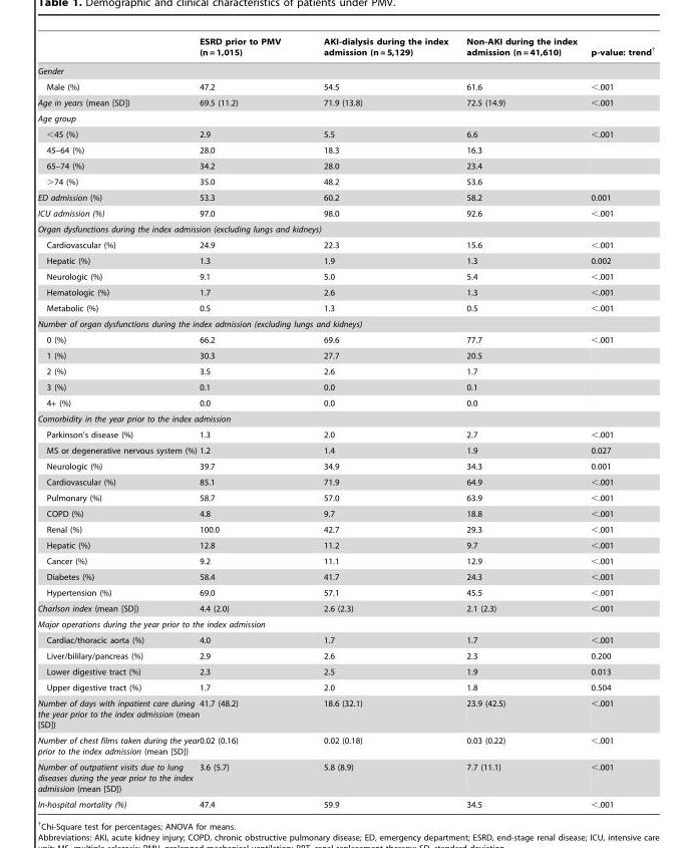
<table><thead><tr><td></td><td>ESRD prior to PMV (n = 1,015)</td><td>AKI-dialysis during the index admission (n = 5,129)</td><td>Non-AKI during the index admission (n = 41,610)</td><td>p-value: trend†</td></tr></thead><tbody><tr><td colspan="5">Gender</td></tr><tr><td>Male (%)</td><td>47.2</td><td>54.5</td><td>61.6</td><td>&lt;.001</td></tr><tr><td>Age in years (mean [SD])</td><td>69.5 (11.2)</td><td>71.9 (13.8)</td><td>72.5 (14.9)</td><td>&lt;.001</td></tr><tr><td colspan="5">Age group</td></tr><tr><td>&lt;45 (%)</td><td>2.9</td><td>5.5</td><td>6.6</td><td>&lt;.001</td></tr><tr><td>45–64 (%)</td><td>28.0</td><td>18.3</td><td>16.3</td><td></td></tr><tr><td>65–74 (%)</td><td>34.2</td><td>28.0</td><td>23.4</td><td></td></tr><tr><td>&gt;74 (%)</td><td>35.0</td><td>48.2</td><td>53.6</td><td></td></tr><tr><td>ED admission (%)</td><td>53.3</td><td>60.2</td><td>58.2</td><td>0.001</td></tr><tr><td>ICU admission (%)</td><td>97.0</td><td>98.0</td><td>92.6</td><td>&lt;.001</td></tr><tr><td colspan="5">Organ dysfunctions during the index admission (excluding lungs and kidneys)</td></tr><tr><td>Cardiovascular (%)</td><td>24.9</td><td>22.3</td><td>15.6</td><td>&lt;.001</td></tr><tr><td>Hepatic (%)</td><td>1.3</td><td>1.9</td><td>1.3</td><td>0.002</td></tr><tr><td>Neurologic (%)</td><td>9.1</td><td>5.0</td><td>5.4</td><td>&lt;.001</td></tr><tr><td>Hematologic (%)</td><td>1.7</td><td>2.6</td><td>1.3</td><td>&lt;.001</td></tr><tr><td>Metabolic (%)</td><td>0.5</td><td>1.3</td><td>0.5</td><td>&lt;.001</td></tr><tr><td colspan="5">Number of organ dysfunctions during the index admission (excluding lungs and kidneys)</td></tr><tr><td>0 (%)</td><td>66.2</td><td>69.6</td><td>77.7</td><td>&lt;.001</td></tr><tr><td>1 (%)</td><td>30.3</td><td>27.7</td><td>20.5</td><td></td></tr><tr><td>2 (%)</td><td>3.5</td><td>2.6</td><td>1.7</td><td></td></tr><tr><td>3 (%)</td><td>0.1</td><td>0.0</td><td>0.1</td><td></td></tr><tr><td>4+ (%)</td><td>0.0</td><td>0.0</td><td>0.0</td><td></td></tr><tr><td colspan="5">Comorbidity in the year prior to the index admission</td></tr><tr><td>Parkinson’s disease (%)</td><td>1.3</td><td>2.0</td><td>2.7</td><td>&lt;.001</td></tr><tr><td>MS or degenerative nervous system (%)</td><td>1.2</td><td>1.4</td><td>1.9</td><td>0.027</td></tr><tr><td>Neurologic (%)</td><td>39.7</td><td>34.9</td><td>34.3</td><td>0.001</td></tr><tr><td>Cardiovascular (%)</td><td>85.1</td><td>71.9</td><td>64.9</td><td>&lt;.001</td></tr><tr><td>Pulmonary (%)</td><td>58.7</td><td>57.0</td><td>63.9</td><td>&lt;.001</td></tr><tr><td>COPD (%)</td><td>4.8</td><td>9.7</td><td>18.8</td><td>&lt;.001</td></tr><tr><td>Renal (%)</td><td>100.0</td><td>42.7</td><td>29.3</td><td>&lt;.001</td></tr><tr><td>Hepatic (%)</td><td>12.8</td><td>11.2</td><td>9.7</td><td>&lt;.001</td></tr><tr><td>Cancer (%)</td><td>9.2</td><td>11.1</td><td>12.9</td><td>&lt;.001</td></tr><tr><td>Diabetes (%)</td><td>58.4</td><td>41.7</td><td>24.3</td><td>&lt;.001</td></tr><tr><td>Hypertension (%)</td><td>69.0</td><td>57.1</td><td>45.5</td><td>&lt;.001</td></tr><tr><td>Charlson index (mean [SD])</td><td>4.4 (2.0)</td><td>2.6 (2.3)</td><td>2.1 (2.3)</td><td>&lt;.001</td></tr><tr><td colspan="5">Major operations during the year prior to the index admission</td></tr><tr><td>Cardiac/thoracic aorta (%)</td><td>4.0</td><td>1.7</td><td>1.7</td><td>&lt;.001</td></tr><tr><td>Liver/bililary/pancreas (%)</td><td>2.9</td><td>2.6</td><td>2.3</td><td>0.200</td></tr><tr><td>Lower digestive tract (%)</td><td>2.3</td><td>2.5</td><td>1.9</td><td>0.013</td></tr><tr><td>Upper digestive tract (%)</td><td>1.7</td><td>2.0</td><td>1.8</td><td>0.504</td></tr><tr><td>Number of days with inpatient care during the year prior to the index admission (mean [SD])</td><td>41.7 (48.2)</td><td>18.6 (32.1)</td><td>23.9 (42.5)</td><td>&lt;.001</td></tr><tr><td>Number of chest films taken during the year prior to the index admission (mean [SD])</td><td>0.02 (0.16)</td><td>0.02 (0.18)</td><td>0.03 (0.22)</td><td>&lt;.001</td></tr><tr><td>Number of outpatient visits due to lung diseases during the year prior to the index admission (mean [SD])</td><td>3.6 (5.7)</td><td>5.8 (8.9)</td><td>7.7 (11.1)</td><td>&lt;.001</td></tr><tr><td>In-hospital mortality (%)</td><td>47.4</td><td>59.9</td><td>34.5</td><td>&lt;.001</td></tr></tbody></table>